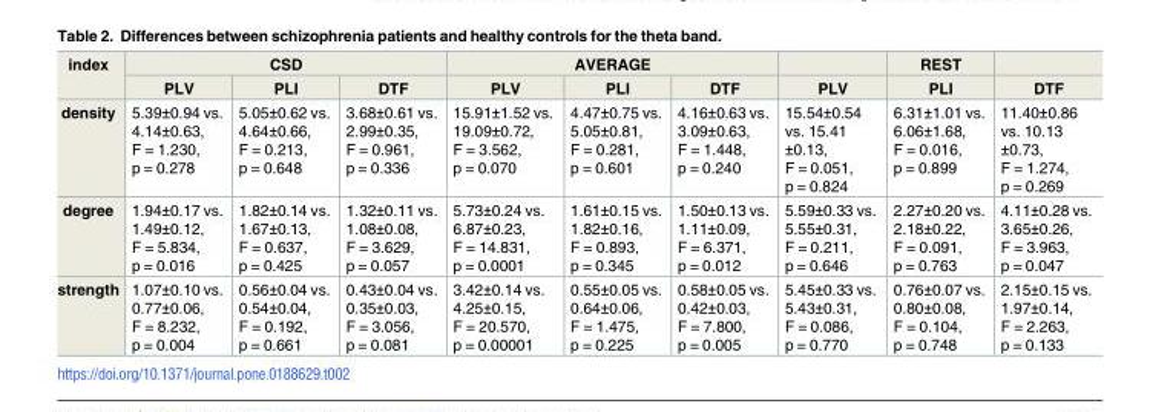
<table><thead><tr><td rowspan="2">index</td><td colspan="3">CSD</td><td colspan="3">AVERAGE</td><td rowspan="2">PLV</td><td rowspan="2">REST PLI</td><td rowspan="2">DTF</td></tr><tr><td>PLV</td><td>PLI</td><td>DTF</td><td>PLV</td><td>PLI</td><td>DTF</td></tr></thead><tbody><tr><td>density</td><td>5.39±0.94 vs. 4.14±0.63, F = 1.230, p = 0.278</td><td>5.05±0.62 vs. 4.64±0.66, F = 0.213, p = 0.648</td><td>3.68±0.61 vs. 2.99±0.35, F = 0.961, p = 0.336</td><td>15.91±1.52 vs. 19.09±0.72, F = 3.562, p = 0.070</td><td>4.47±0.75 vs. 5.05±0.81, F = 0.281, p = 0.601</td><td>4.16±0.63 vs. 3.09±0.63, F = 1.448, p = 0.240</td><td>15.54±0.54 vs. 15.41 ±0.13, F = 0.051, p = 0.824</td><td>6.31±1.01 vs. 6.06±1.68, F = 0.016, p = 0.899</td><td>11.40±0.86 vs. 10.13 ±0.73, F = 1.274, p = 0.269</td></tr><tr><td>degree</td><td>1.94±0.17 vs. 1.49±0.12, F = 5.834, p = 0.016</td><td>1.82±0.14 vs. 1.67±0.13, F = 0.637, p = 0.425</td><td>1.32±0.11 vs. 1.08±0.08, F = 3.629, p = 0.057</td><td>5.73±0.24 vs. 6.87±0.23, F = 14.831, p = 0.0001</td><td>1.61±0.15 vs. 1.82±0.16, F = 0.893, p = 0.345</td><td>1.50±0.13 vs. 1.11±0.09, F = 6.371, p = 0.012</td><td>5.59±0.33 vs. 5.55±0.31, F = 0.211, p = 0.646</td><td>2.27±0.20 vs. 2.18±0.22, F = 0.091, p = 0.763</td><td>4.11±0.28 vs. 3.65±0.26, F = 3.963, p = 0.047</td></tr><tr><td>strength</td><td>1.07±0.10 vs. 0.77±0.06, F = 8.232, p = 0.004</td><td>0.56±0.04 vs. 0.54±0.04, F = 0.192, p = 0.661</td><td>0.43±0.04 vs. 0.35±0.03, F = 3.056, p = 0.081</td><td>3.42±0.14 vs. 4.25±0.15, F = 20.570, p = 0.00001</td><td>0.55±0.05 vs. 0.64±0.06, F = 1.475, p = 0.225</td><td>0.58±0.05 vs. 0.42±0.03, F = 7.800, p = 0.005</td><td>5.45±0.33 vs. 5.43±0.31, F = 0.086, p = 0.770</td><td>0.76±0.07 vs. 0.80±0.08, F = 0.104, p = 0.748</td><td>2.15±0.15 vs. 1.97±0.14, F = 2.263, p = 0.133</td></tr></tbody></table>